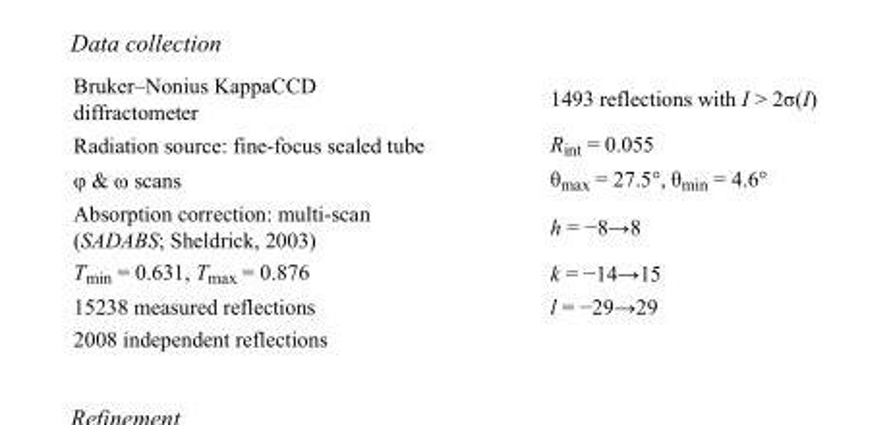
<table><tbody><tr><td>Bruker–Nonius KappaCCD diffractometer</td><td>1493 reflections with I &gt; 2σ(I)</td></tr><tr><td>Radiation source: fine-focus sealed tube</td><td>R<sub>int</sub> = 0.055</td></tr><tr><td>φ &amp; ω scans</td><td>θ<sub>max</sub> = 27.5°, θ<sub>min</sub> = 4.6°</td></tr><tr><td>Absorption correction: multi-scan (SADABS; Sheldrick, 2003)</td><td>h = −8→8</td></tr><tr><td>T<sub>min</sub> = 0.631, T<sub>max</sub> = 0.876</td><td>k = −14→15</td></tr><tr><td>15238 measured reflections</td><td>l = −29→29</td></tr><tr><td>2008 independent reflections</td><td></td></tr></tbody></table>